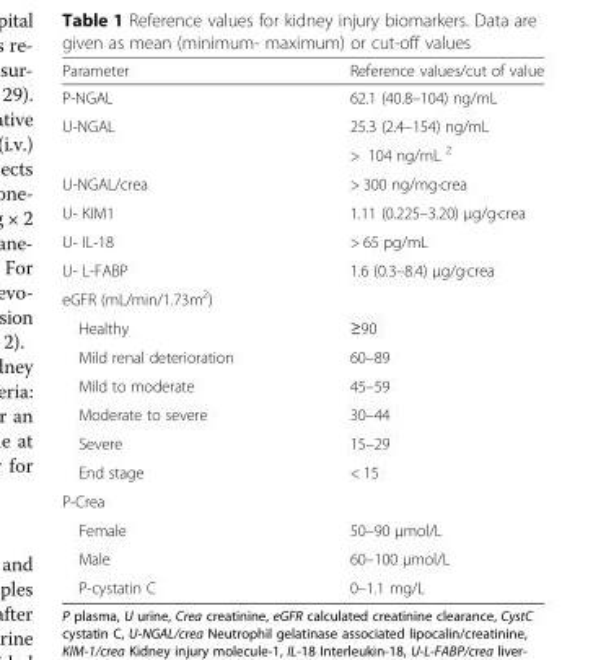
<table><thead><tr><td>Parameter</td><td>Reference values/cut of value</td></tr></thead><tbody><tr><td>P-NGAL</td><td>62.1 (40.8–104) ng/mL</td></tr><tr><td rowspan="2">U-NGAL</td><td>25.3 (2.4–154) ng/mL</td></tr><tr><td>&gt; 104 ng/mL <sup>2</sup></td></tr><tr><td>U-NGAL/crea</td><td>&gt; 300 ng/mg·crea</td></tr><tr><td>U- KIM1</td><td>1.11 (0.225–3.20) μg/g·crea</td></tr><tr><td>U- IL-18</td><td>&gt; 65 pg/mL</td></tr><tr><td>U- L-FABP</td><td>1.6 (0.3–8.4) μg/g·crea</td></tr><tr><td colspan="2">eGFR (mL/min/1.73m<sup>2</sup>)</td></tr><tr><td>Healthy</td><td>≥90</td></tr><tr><td>Mild renal deterioration</td><td>60–89</td></tr><tr><td>Mild to moderate</td><td>45–59</td></tr><tr><td>Moderate to severe</td><td>30–44</td></tr><tr><td>Severe</td><td>15–29</td></tr><tr><td>End stage</td><td>&lt; 15</td></tr><tr><td colspan="2">P-Crea</td></tr><tr><td>Female</td><td>50–90 μmol/L</td></tr><tr><td>Male</td><td>60–100 μmol/L</td></tr><tr><td>P-cystatin C</td><td>0–1.1 mg/L</td></tr></tbody></table>